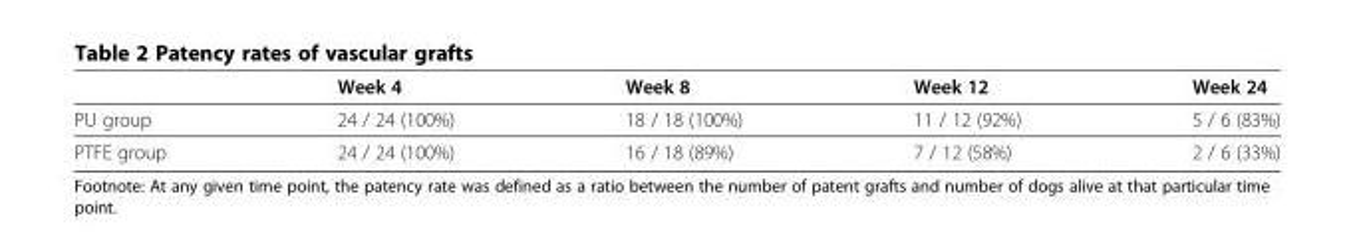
<table><thead><tr><td></td><td>Week 4</td><td>Week 8</td><td>Week 12</td><td>Week 24</td></tr></thead><tbody><tr><td>PU group</td><td>24 / 24 (100%)</td><td>18 / 18 (100%)</td><td>11 / 12 (92%)</td><td>5 / 6 (83%)</td></tr><tr><td>PTFE group</td><td>24 / 24 (100%)</td><td>16 / 18 (89%)</td><td>7 / 12 (58%)</td><td>2 / 6 (33%)</td></tr></tbody></table>